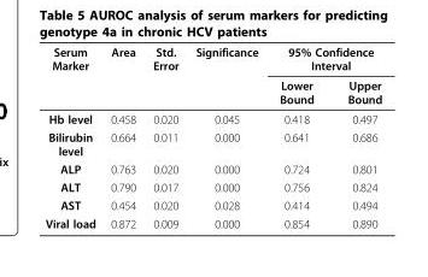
<table><thead><tr><td rowspan="2">Serum Marker</td><td rowspan="2">Area</td><td rowspan="2">Std. Error</td><td rowspan="2">Significance</td><td colspan="2">95% Confidence Interval</td></tr><tr><td>Lower Bound</td><td>Upper Bound</td></tr></thead><tbody><tr><td>Hb level</td><td>0.458</td><td>0.020</td><td>0.045</td><td>0.418</td><td>0.497</td></tr><tr><td>Bilirubin level</td><td>0.664</td><td>0.011</td><td>0.000</td><td>0.641</td><td>0.686</td></tr><tr><td>ALP</td><td>0.763</td><td>0.020</td><td>0.000</td><td>0.724</td><td>0.801</td></tr><tr><td>ALT</td><td>0.790</td><td>0.017</td><td>0.000</td><td>0.756</td><td>0.824</td></tr><tr><td>AST</td><td>0.454</td><td>0.020</td><td>0.028</td><td>0.414</td><td>0.494</td></tr><tr><td>Viral load</td><td>0.872</td><td>0.009</td><td>0.000</td><td>0.854</td><td>0.890</td></tr></tbody></table>